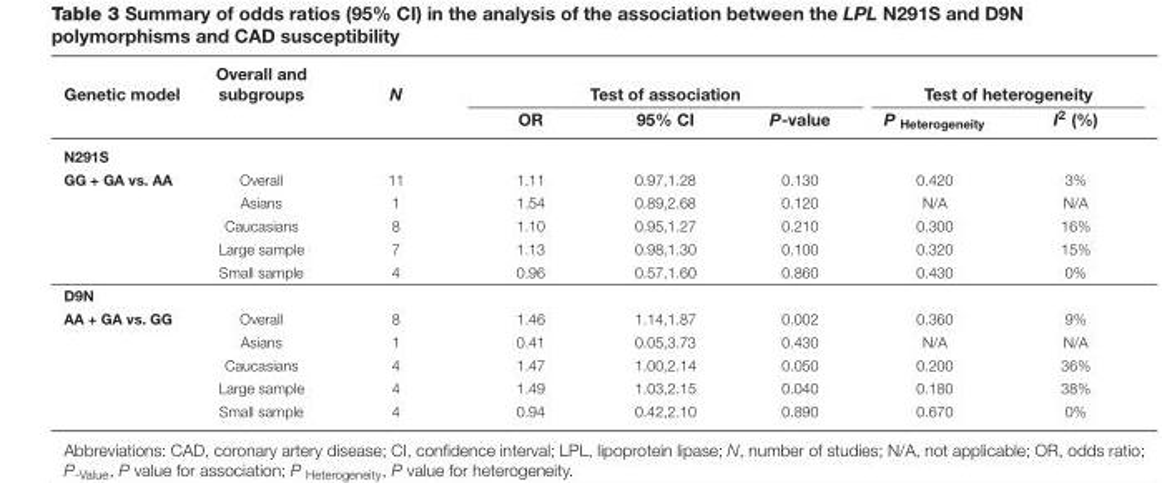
<table><thead><tr><td rowspan="2">Genetic model</td><td rowspan="2">Overall and subgroups</td><td rowspan="2">N</td><td colspan="3">Test of association</td><td colspan="2">Test of heterogeneity</td></tr><tr><td>OR</td><td>95% CI</td><td>P-value</td><td>P <sub>Heterogeneity</sub></td><td>I<sup>2</sup> (%)</td></tr></thead><tbody><tr><td colspan="8">N291S</td></tr><tr><td rowspan="5">GG + GA vs. AA</td><td>Overall</td><td>11</td><td>1.11</td><td>0.97,1.28</td><td>0.130</td><td>0.420</td><td>3%</td></tr><tr><td>Asians</td><td>1</td><td>1.54</td><td>0.89,2.68</td><td>0.120</td><td>N/A</td><td>N/A</td></tr><tr><td>Caucasians</td><td>8</td><td>1.10</td><td>0.95,1.27</td><td>0.210</td><td>0.300</td><td>16%</td></tr><tr><td>Large sample</td><td>7</td><td>1.13</td><td>0.98,1.30</td><td>0.100</td><td>0.320</td><td>15%</td></tr><tr><td>Small sample</td><td>4</td><td>0.96</td><td>0.57,1.60</td><td>0.860</td><td>0.430</td><td>0%</td></tr><tr><td colspan="8">D9N</td></tr><tr><td rowspan="5">AA + GA vs. GG</td><td>Overall</td><td>8</td><td>1.46</td><td>1.14,1.87</td><td>0.002</td><td>0.360</td><td>9%</td></tr><tr><td>Asians</td><td>1</td><td>0.41</td><td>0.05,3.73</td><td>0.430</td><td>N/A</td><td>N/A</td></tr><tr><td>Caucasians</td><td>4</td><td>1.47</td><td>1.00,2.14</td><td>0.050</td><td>0.200</td><td>36%</td></tr><tr><td>Large sample</td><td>4</td><td>1.49</td><td>1.03,2.15</td><td>0.040</td><td>0.180</td><td>38%</td></tr><tr><td>Small sample</td><td>4</td><td>0.94</td><td>0.42,2.10</td><td>0.890</td><td>0.670</td><td>0%</td></tr></tbody></table>